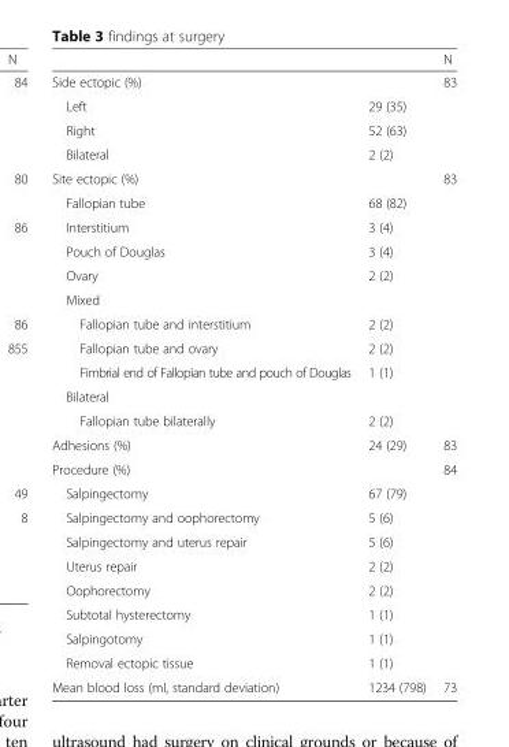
<table><thead><tr><td></td><td></td><td>N</td></tr></thead><tbody><tr><td colspan="2">Side ectopic (%)</td><td>83</td></tr><tr><td>Left</td><td>29 (35)</td><td></td></tr><tr><td>Right</td><td>52 (63)</td><td></td></tr><tr><td>Bilateral</td><td>2 (2)</td><td></td></tr><tr><td colspan="2">Site ectopic (%)</td><td>83</td></tr><tr><td>Fallopian tube</td><td>68 (82)</td><td></td></tr><tr><td>Interstitium</td><td>3 (4)</td><td></td></tr><tr><td>Pouch of Douglas</td><td>3 (4)</td><td></td></tr><tr><td>Ovary</td><td>2 (2)</td><td></td></tr><tr><td colspan="3">Mixed</td></tr><tr><td>Fallopian tube and interstitium</td><td>2 (2)</td><td></td></tr><tr><td>Fallopian tube and ovary</td><td>2 (2)</td><td></td></tr><tr><td>Fimbrial end of Fallopian tube and pouch of Douglas</td><td>1 (1)</td><td></td></tr><tr><td colspan="3">Bilateral</td></tr><tr><td>Fallopian tube bilaterally</td><td>2 (2)</td><td></td></tr><tr><td>Adhesions (%)</td><td>24 (29)</td><td>83</td></tr><tr><td colspan="2">Procedure (%)</td><td>84</td></tr><tr><td>Salpingectomy</td><td>67 (79)</td><td></td></tr><tr><td>Salpingectomy and oophorectomy</td><td>5 (6)</td><td></td></tr><tr><td>Salpingectomy and uterus repair</td><td>5 (6)</td><td></td></tr><tr><td>Uterus repair</td><td>2 (2)</td><td></td></tr><tr><td>Oophorectomy</td><td>2 (2)</td><td></td></tr><tr><td>Subtotal hysterectomy</td><td>1 (1)</td><td></td></tr><tr><td>Salpingotomy</td><td>1 (1)</td><td></td></tr><tr><td>Removal ectopic tissue</td><td>1 (1)</td><td></td></tr><tr><td>Mean blood loss (ml, standard deviation)</td><td>1234 (798)</td><td>73</td></tr></tbody></table>